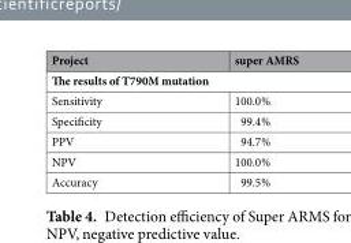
<table><thead><tr><td>Project</td><td>super AMRS</td></tr></thead><tbody><tr><td colspan="2">The results of T790M mutation</td></tr><tr><td>Sensitivity</td><td>100.0%</td></tr><tr><td>Specificity</td><td>99.4%</td></tr><tr><td>PPV</td><td>94.7%</td></tr><tr><td>NPV</td><td>100.0%</td></tr><tr><td>Accuracy</td><td>99.5%</td></tr></tbody></table>